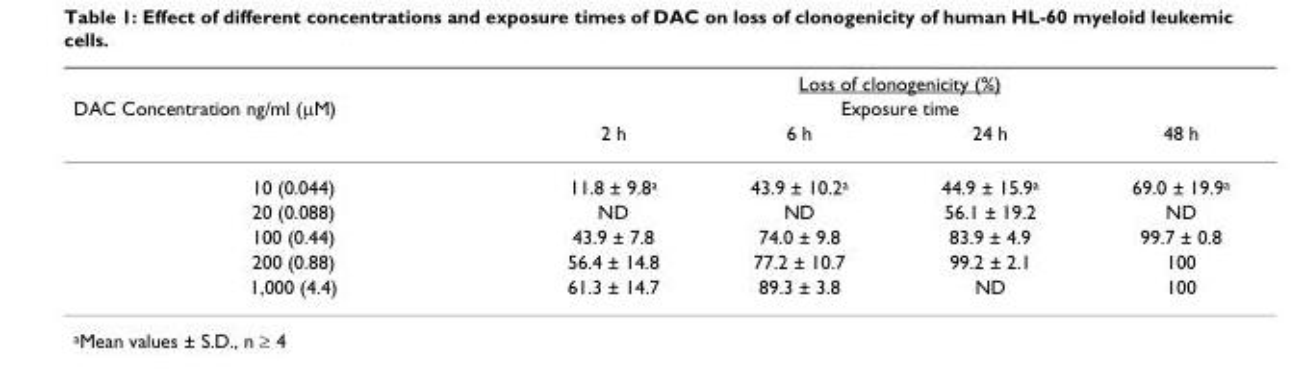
<table><thead><tr><td rowspan="3">DAC Concentration ng/ml (µM)</td><td rowspan="2" colspan="4">Loss of clonogenicity (%) Exposure time</td></tr><tr></tr><tr><td>2 h</td><td>6 h</td><td>24 h</td><td>48 h</td></tr></thead><tbody><tr><td>10 (0.044)</td><td>11.8 ± 9.8<sup>a</sup></td><td>43.9 ± 10.2<sup>a</sup></td><td>44.9 ± 15.9<sup>a</sup></td><td>69.0 ± 19.9<sup>a</sup></td></tr><tr><td>20 (0.088)</td><td>ND</td><td>ND</td><td>56.1 ± 19.2</td><td>ND</td></tr><tr><td>100 (0.44)</td><td>43.9 ± 7.8</td><td>74.0 ± 9.8</td><td>83.9 ± 4.9</td><td>99.7 ± 0.8</td></tr><tr><td>200 (0.88)</td><td>56.4 ± 14.8</td><td>77.2 ± 10.7</td><td>99.2 ± 2.1</td><td>100</td></tr><tr><td>1,000 (4.4)</td><td>61.3 ± 14.7</td><td>89.3 ± 3.8</td><td>ND</td><td>100</td></tr></tbody></table>